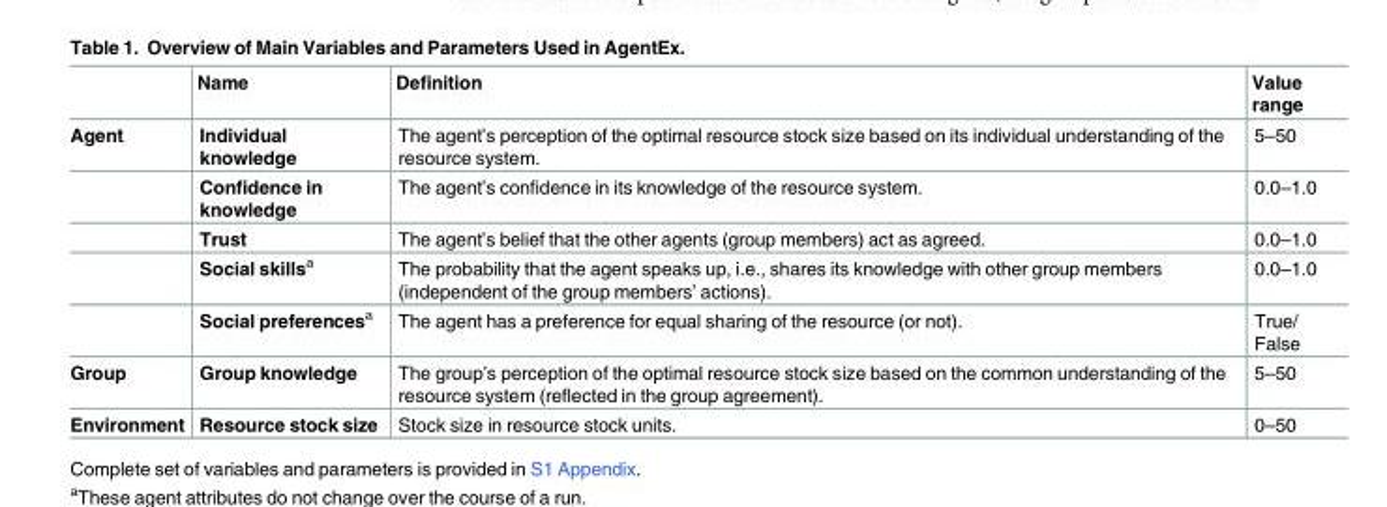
<table><thead><tr><td></td><td>Name</td><td>Definition</td><td>Value range</td></tr></thead><tbody><tr><td rowspan="5">Agent</td><td>Individual knowledge</td><td>The agent’s perception of the optimal resource stock size based on its individual understanding of the resource system.</td><td>5–50</td></tr><tr><td>Confidence in knowledge</td><td>The agent’s confidence in its knowledge of the resource system.</td><td>0.0–1.0</td></tr><tr><td>Trust</td><td>The agent’s belief that the other agents (group members) act as agreed.</td><td>0.0–1.0</td></tr><tr><td>Social skills<sup>a</sup></td><td>The probability that the agent speaks up, i.e., shares its knowledge with other group members (independent of the group members’ actions).</td><td>0.0–1.0</td></tr><tr><td>Social preferences<sup>a</sup></td><td>The agent has a preference for equal sharing of the resource (or not).</td><td>True/ False</td></tr><tr><td>Group</td><td>Group knowledge</td><td>The group’s perception of the optimal resource stock size based on the common understanding of the resource system (reflected in the group agreement).</td><td>5–50</td></tr><tr><td>Environment</td><td>Resource stock size</td><td>Stock size in resource stock units.</td><td>0–50</td></tr></tbody></table>